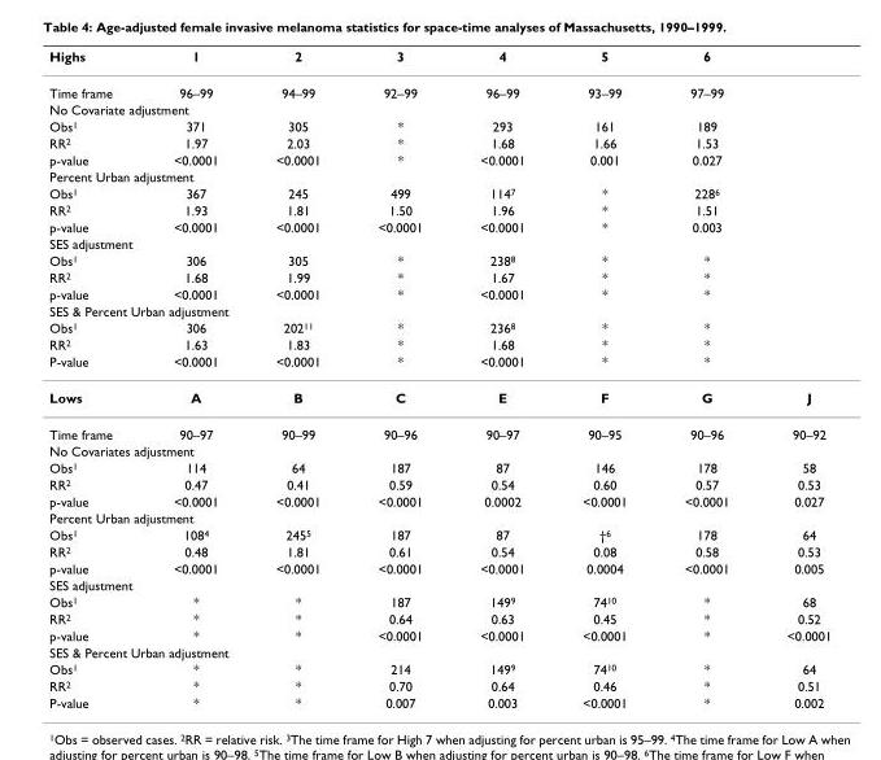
<table><thead><tr><td>Highs</td><td>1</td><td>2</td><td>3</td><td>4</td><td>5</td><td>6</td><td></td></tr></thead><tbody><tr><td>Time frame</td><td>96–99</td><td>94–99</td><td>92–99</td><td>96–99</td><td>93–99</td><td>97–99</td><td></td></tr><tr><td colspan="8">No Covariate adjustment</td></tr><tr><td>Obs<sup>1</sup></td><td>371</td><td>305</td><td>*</td><td>293</td><td>161</td><td>189</td><td></td></tr><tr><td>RR<sup>2</sup></td><td>1.97</td><td>2.03</td><td>*</td><td>1.68</td><td>1.66</td><td>1.53</td><td></td></tr><tr><td>p-value</td><td>&lt;0.0001</td><td>&lt;0.0001</td><td>*</td><td>&lt;0.0001</td><td>0.001</td><td>0.027</td><td></td></tr><tr><td colspan="8">Percent Urban adjustment</td></tr><tr><td>Obs<sup>1</sup></td><td>367</td><td>245</td><td>499</td><td>114<sup>7</sup></td><td>*</td><td>228<sup>6</sup></td><td></td></tr><tr><td>RR<sup>2</sup></td><td>1.93</td><td>1.81</td><td>1.50</td><td>1.96</td><td>*</td><td>1.51</td><td></td></tr><tr><td>p-value</td><td>&lt;0.0001</td><td>&lt;0.0001</td><td>&lt;0.0001</td><td>&lt;0.0001</td><td>*</td><td>0.003</td><td></td></tr><tr><td colspan="8">SES adjustment</td></tr><tr><td>Obs<sup>1</sup></td><td>306</td><td>305</td><td>*</td><td>238<sup>8</sup></td><td>*</td><td>*</td><td></td></tr><tr><td>RR<sup>2</sup></td><td>1.68</td><td>1.99</td><td>*</td><td>1.67</td><td>*</td><td>*</td><td></td></tr><tr><td>p-value</td><td>&lt;0.0001</td><td>&lt;0.0001</td><td>*</td><td>&lt;0.0001</td><td>*</td><td>*</td><td></td></tr><tr><td colspan="8">SES &amp; Percent Urban adjustment</td></tr><tr><td>Obs<sup>1</sup></td><td>306</td><td>202<sup>11</sup></td><td>*</td><td>236<sup>8</sup></td><td>*</td><td>*</td><td></td></tr><tr><td>RR<sup>2</sup></td><td>1.63</td><td>1.83</td><td>*</td><td>1.68</td><td>*</td><td>*</td><td></td></tr><tr><td>P-value</td><td>&lt;0.0001</td><td>&lt;0.0001</td><td>*</td><td>&lt;0.0001</td><td>*</td><td>*</td><td></td></tr><tr><td>Lows</td><td>A</td><td>B</td><td>C</td><td>E</td><td>F</td><td>G</td><td>J</td></tr><tr><td>Time frame</td><td>90–97</td><td>90–99</td><td>90–96</td><td>90–97</td><td>90–95</td><td>90–96</td><td>90–92</td></tr><tr><td colspan="8">No Covariates adjustment</td></tr><tr><td>Obs<sup>1</sup></td><td>114</td><td>64</td><td>187</td><td>87</td><td>146</td><td>178</td><td>58</td></tr><tr><td>RR<sup>2</sup></td><td>0.47</td><td>0.41</td><td>0.59</td><td>0.54</td><td>0.60</td><td>0.57</td><td>0.53</td></tr><tr><td>p-value</td><td>&lt;0.0001</td><td>&lt;0.0001</td><td>&lt;0.0001</td><td>0.0002</td><td>&lt;0.0001</td><td>&lt;0.0001</td><td>0.027</td></tr><tr><td colspan="8">Percent Urban adjustment</td></tr><tr><td>Obs<sup>1</sup></td><td>108<sup>4</sup></td><td>245<sup>5</sup></td><td>187</td><td>87</td><td>†<sup>6</sup></td><td>178</td><td>64</td></tr><tr><td>RR<sup>2</sup></td><td>0.48</td><td>1.81</td><td>0.61</td><td>0.54</td><td>0.08</td><td>0.58</td><td>0.53</td></tr><tr><td>p-value</td><td>&lt;0.0001</td><td>&lt;0.0001</td><td>&lt;0.0001</td><td>&lt;0.0001</td><td>0.0004</td><td>&lt;0.0001</td><td>0.005</td></tr><tr><td colspan="8">SES adjustment</td></tr><tr><td>Obs<sup>1</sup></td><td>*</td><td>*</td><td>187</td><td>149<sup>9</sup></td><td>74<sup>10</sup></td><td>*</td><td>68</td></tr><tr><td>RR<sup>2</sup></td><td>*</td><td>*</td><td>0.64</td><td>0.63</td><td>0.45</td><td>*</td><td>0.52</td></tr><tr><td>p-value</td><td>*</td><td>*</td><td>&lt;0.0001</td><td>&lt;0.0001</td><td>&lt;0.0001</td><td>*</td><td>&lt;0.0001</td></tr><tr><td colspan="8">SES &amp; Percent Urban adjustment</td></tr><tr><td>Obs<sup>1</sup></td><td>*</td><td>*</td><td>214</td><td>149<sup>9</sup></td><td>74<sup>10</sup></td><td>*</td><td>64</td></tr><tr><td>RR<sup>2</sup></td><td>*</td><td>*</td><td>0.70</td><td>0.64</td><td>0.46</td><td>*</td><td>0.51</td></tr><tr><td>P-value</td><td>*</td><td>*</td><td>0.007</td><td>0.003</td><td>&lt;0.0001</td><td>*</td><td>0.002</td></tr></tbody></table>